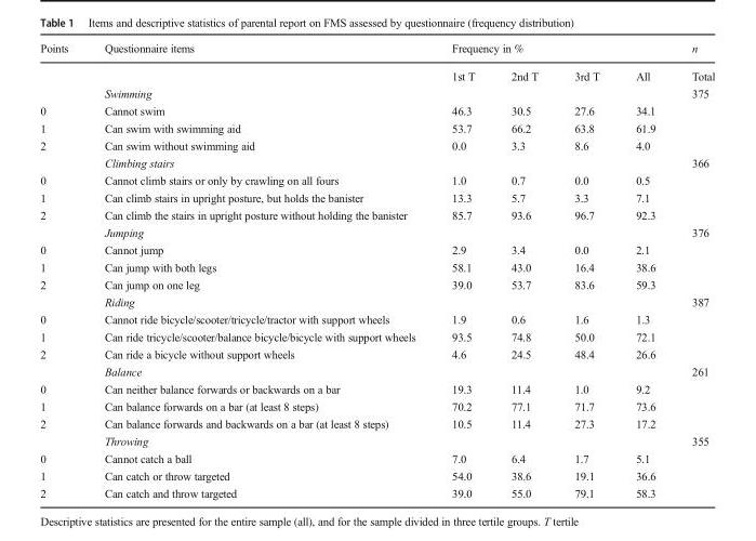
<table><thead><tr><td rowspan="2">Points</td><td rowspan="2">Questionnaire items</td><td colspan="4">Frequency in %</td><td rowspan="2">n Total</td></tr><tr><td>1st T</td><td>2nd T</td><td>3rd T</td><td>All</td></tr></thead><tbody><tr><td></td><td>Swimming</td><td></td><td></td><td></td><td></td><td>375</td></tr><tr><td>0</td><td>Cannot swim</td><td>46.3</td><td>30.5</td><td>27.6</td><td>34.1</td><td></td></tr><tr><td>1</td><td>Can swim with swimming aid</td><td>53.7</td><td>66.2</td><td>63.8</td><td>61.9</td><td></td></tr><tr><td rowspan="2">2</td><td>Can swim without swimming aid</td><td>0.0</td><td>3.3</td><td>8.6</td><td>4.0</td><td></td></tr><tr><td>Climbing stairs</td><td></td><td></td><td></td><td></td><td>366</td></tr><tr><td>0</td><td>Cannot climb stairs or only by crawling on all fours</td><td>1.0</td><td>0.7</td><td>0.0</td><td>0.5</td><td></td></tr><tr><td>1</td><td>Can climb stairs in upright posture, but holds the banister</td><td>13.3</td><td>5.7</td><td>3.3</td><td>7.1</td><td></td></tr><tr><td rowspan="2">2</td><td>Can climb the stairs in upright posture without holding the banister</td><td>85.7</td><td>93.6</td><td>96.7</td><td>92.3</td><td></td></tr><tr><td>Jumping</td><td></td><td></td><td></td><td></td><td>376</td></tr><tr><td>0</td><td>Cannot jump</td><td>2.9</td><td>3.4</td><td>0.0</td><td>2.1</td><td></td></tr><tr><td>1</td><td>Can jump with both legs</td><td>58.1</td><td>43.0</td><td>16.4</td><td>38.6</td><td></td></tr><tr><td rowspan="2">2</td><td>Can jump on one leg</td><td>39.0</td><td>53.7</td><td>83.6</td><td>59.3</td><td></td></tr><tr><td>Riding</td><td></td><td></td><td></td><td></td><td>387</td></tr><tr><td>0</td><td>Cannot ride bicycle/scooter/tricycle/tractor with support wheels</td><td>1.9</td><td>0.6</td><td>1.6</td><td>1.3</td><td></td></tr><tr><td>1</td><td>Can ride tricycle/scooter/balance bicycle/bicycle with support wheels</td><td>93.5</td><td>74.8</td><td>50.0</td><td>72.1</td><td></td></tr><tr><td rowspan="2">2</td><td>Can ride a bicycle without support wheels</td><td>4.6</td><td>24.5</td><td>48.4</td><td>26.6</td><td></td></tr><tr><td>Balance</td><td></td><td></td><td></td><td></td><td>261</td></tr><tr><td>0</td><td>Can neither balance forwards or backwards on a bar</td><td>19.3</td><td>11.4</td><td>1.0</td><td>9.2</td><td></td></tr><tr><td>1</td><td>Can balance forwards on a bar (at least 8 steps)</td><td>70.2</td><td>77.1</td><td>71.7</td><td>73.6</td><td></td></tr><tr><td rowspan="2">2</td><td>Can balance forwards and backwards on a bar (at least 8 steps)</td><td>10.5</td><td>11.4</td><td>27.3</td><td>17.2</td><td></td></tr><tr><td>Throwing</td><td></td><td></td><td></td><td></td><td>355</td></tr><tr><td>0</td><td>Cannot catch a ball</td><td>7.0</td><td>6.4</td><td>1.7</td><td>5.1</td><td></td></tr><tr><td>1</td><td>Can catch or throw targeted</td><td>54.0</td><td>38.6</td><td>19.1</td><td>36.6</td><td></td></tr><tr><td>2</td><td>Can catch and throw targeted</td><td>39.0</td><td>55.0</td><td>79.1</td><td>58.3</td><td></td></tr></tbody></table>